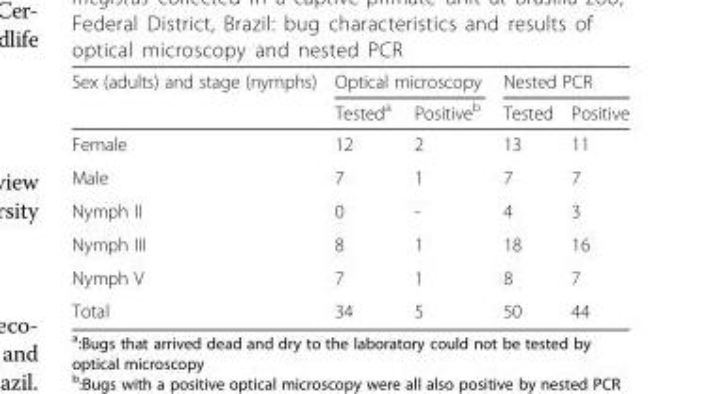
<table><thead><tr><td rowspan="2">Sex (adults) and stage (nymphs)</td><td colspan="2">Optical microscopy</td><td colspan="2">Nested PCR</td></tr><tr><td>Tested<sup>a</sup></td><td>Positive<sup>b</sup></td><td>Tested</td><td>Positive</td></tr></thead><tbody><tr><td>Female</td><td>12</td><td>2</td><td>13</td><td>11</td></tr><tr><td>Male</td><td>7</td><td>1</td><td>7</td><td>7</td></tr><tr><td>Nymph II</td><td>0</td><td>-</td><td>4</td><td>3</td></tr><tr><td>Nymph III</td><td>8</td><td>1</td><td>18</td><td>16</td></tr><tr><td>Nymph V</td><td>7</td><td>1</td><td>8</td><td>7</td></tr><tr><td>Total</td><td>34</td><td>5</td><td>50</td><td>44</td></tr></tbody></table>